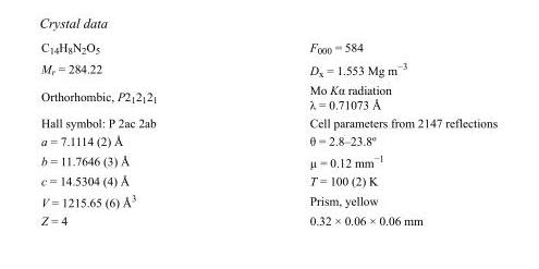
<table><tbody><tr><td>C<sub>14</sub>H<sub>8</sub>N<sub>2</sub>O<sub>5</sub></td><td>F<sub>000</sub> = 584</td></tr><tr><td>M<sub>r</sub> = 284.22</td><td>D<sub>x</sub> = 1.553 Mg m<sup>−3</sup></td></tr><tr><td>Orthorhombic, P2<sub>1</sub>2<sub>1</sub>2<sub>1</sub></td><td>Mo Kα radiation λ = 0.71073 Å</td></tr><tr><td>Hall symbol: P 2ac 2ab</td><td>Cell parameters from 2147 reflections</td></tr><tr><td>a = 7.1114 (2) Å</td><td>θ = 2.8–23.8º</td></tr><tr><td>b = 11.7646 (3) Å</td><td>µ = 0.12 mm<sup>−1</sup></td></tr><tr><td>c = 14.5304 (4) Å</td><td>T = 100 (2) K</td></tr><tr><td>V = 1215.65 (6) Å<sup>3</sup></td><td>Prism, yellow</td></tr><tr><td>Z = 4</td><td>0.32 × 0.06 × 0.06 mm</td></tr></tbody></table>